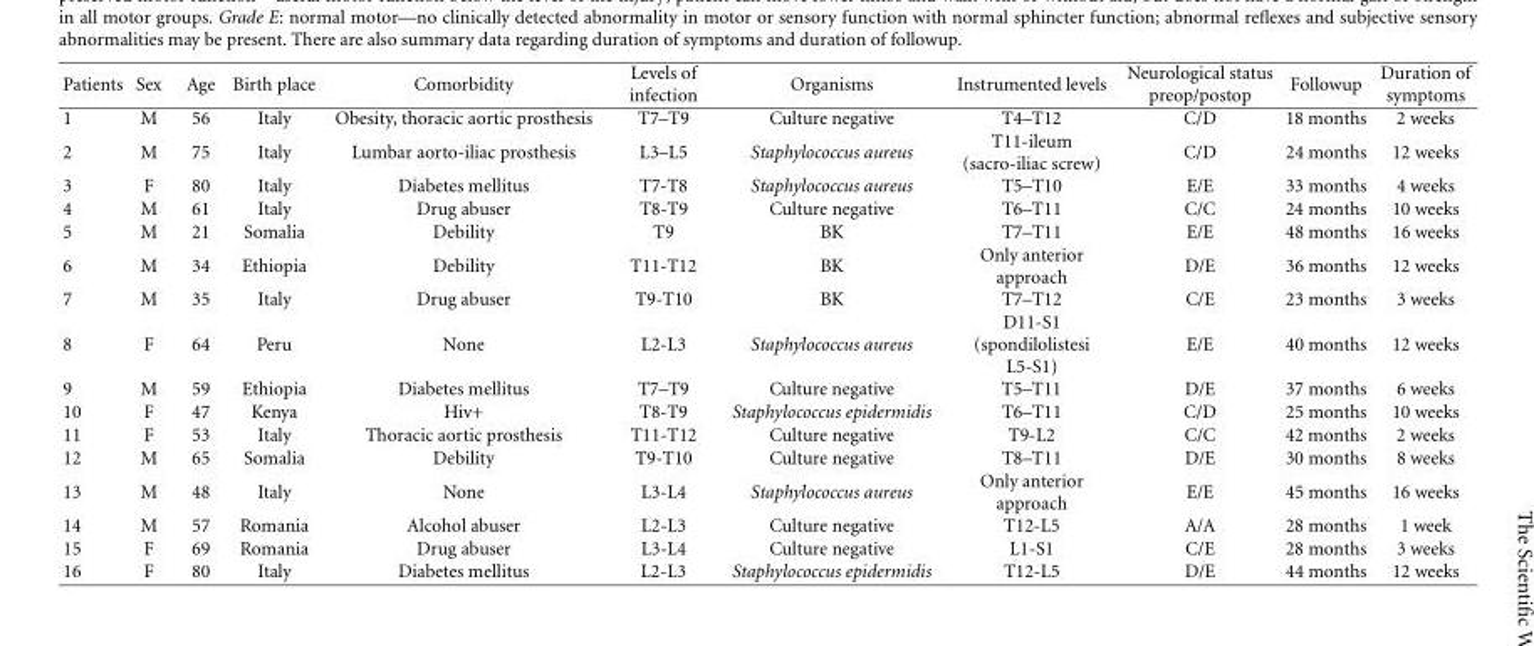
<table><thead><tr><td>Patients</td><td>Sex</td><td>Age</td><td>Birth place</td><td>Comorbidity</td><td>Levels of infection</td><td>Organisms</td><td>Instrumented levels</td><td>Neurological status preop/postop</td><td>Followup</td><td>Duration of symptoms</td></tr></thead><tbody><tr><td>1</td><td>M</td><td>56</td><td>Italy</td><td>Obesity, thoracic aortic prosthesis</td><td>T7–T9</td><td>Culture negative</td><td>T4–T12</td><td>C/D</td><td>18 months</td><td>2 weeks</td></tr><tr><td>2</td><td>M</td><td>75</td><td>Italy</td><td>Lumbar aorto-iliac prosthesis</td><td>L3–L5</td><td>Staphylococcus aureus</td><td>T11-ileum (sacro-iliac screw)</td><td>C/D</td><td>24 months</td><td>12 weeks</td></tr><tr><td>3</td><td>F</td><td>80</td><td>Italy</td><td>Diabetes mellitus</td><td>T7-T8</td><td>Staphylococcus aureus</td><td>T5–T10</td><td>E/E</td><td>33 months</td><td>4 weeks</td></tr><tr><td>4</td><td>M</td><td>61</td><td>Italy</td><td>Drug abuser</td><td>T8-T9</td><td>Culture negative</td><td>T6–T11</td><td>C/C</td><td>24 months</td><td>10 weeks</td></tr><tr><td>5</td><td>M</td><td>21</td><td>Somalia</td><td>Debility</td><td>T9</td><td>BK</td><td>T7–T11</td><td>E/E</td><td>48 months</td><td>16 weeks</td></tr><tr><td>6</td><td>M</td><td>34</td><td>Ethiopia</td><td>Debility</td><td>T11-T12</td><td>BK</td><td>Only anterior approach</td><td>D/E</td><td>36 months</td><td>12 weeks</td></tr><tr><td>7</td><td>M</td><td>35</td><td>Italy</td><td>Drug abuser</td><td>T9-T10</td><td>BK</td><td>T7–T12</td><td>C/E</td><td>23 months</td><td>3 weeks</td></tr><tr><td>8</td><td>F</td><td>64</td><td>Peru</td><td>None</td><td>L2-L3</td><td>Staphylococcus aureus</td><td>D11-S1 (spondilolistesi L5-S1)</td><td>E/E</td><td>40 months</td><td>12 weeks</td></tr><tr><td>9</td><td>M</td><td>59</td><td>Ethiopia</td><td>Diabetes mellitus</td><td>T7–T9</td><td>Culture negative</td><td>T5–T11</td><td>D/E</td><td>37 months</td><td>6 weeks</td></tr><tr><td>10</td><td>F</td><td>47</td><td>Kenya</td><td>Hiv+</td><td>T8-T9</td><td>Staphylococcus epidermidis</td><td>T6–T11</td><td>C/D</td><td>25 months</td><td>10 weeks</td></tr><tr><td>11</td><td>F</td><td>53</td><td>Italy</td><td>Thoracic aortic prosthesis</td><td>T11-T12</td><td>Culture negative</td><td>T9-L2</td><td>C/C</td><td>42 months</td><td>2 weeks</td></tr><tr><td>12</td><td>M</td><td>65</td><td>Somalia</td><td>Debility</td><td>T9-T10</td><td>Culture negative</td><td>T8–T11</td><td>D/E</td><td>30 months</td><td>8 weeks</td></tr><tr><td>13</td><td>M</td><td>48</td><td>Italy</td><td>None</td><td>L3-L4</td><td>Staphylococcus aureus</td><td>Only anterior approach</td><td>E/E</td><td>45 months</td><td>16 weeks</td></tr><tr><td>14</td><td>M</td><td>57</td><td>Romania</td><td>Alcohol abuser</td><td>L2-L3</td><td>Culture negative</td><td>T12-L5</td><td>A/A</td><td>28 months</td><td>1 week</td></tr><tr><td>15</td><td>F</td><td>69</td><td>Romania</td><td>Drug abuser</td><td>L3-L4</td><td>Culture negative</td><td>L1-S1</td><td>C/E</td><td>28 months</td><td>3 weeks</td></tr><tr><td>16</td><td>F</td><td>80</td><td>Italy</td><td>Diabetes mellitus</td><td>L2-L3</td><td>Staphylococcus epidermidis</td><td>T12-L5</td><td>D/E</td><td>44 months</td><td>12 weeks</td></tr></tbody></table>